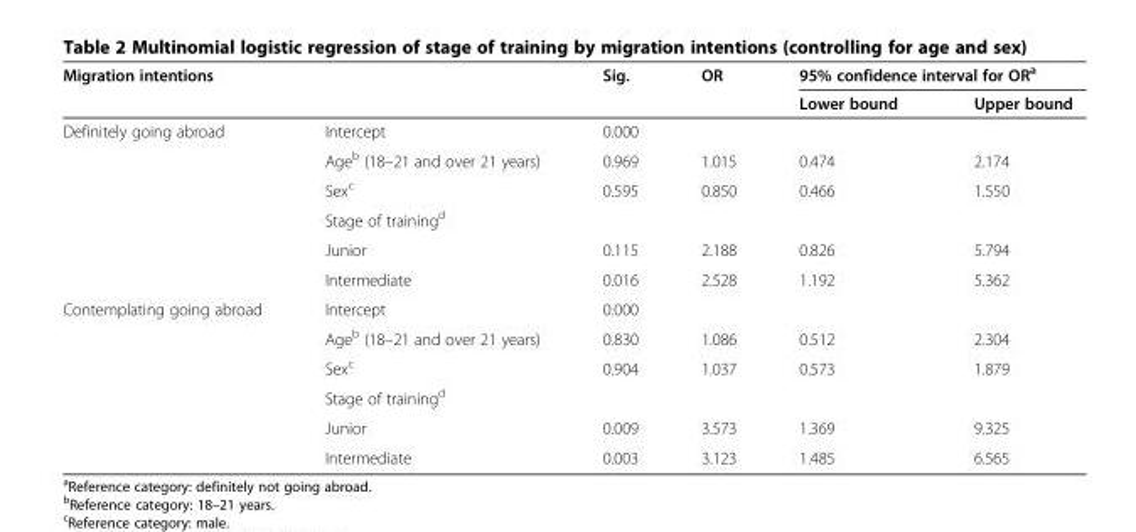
<table><thead><tr><td rowspan="2">Migration intentions</td><td rowspan="2"></td><td rowspan="2">Sig.</td><td rowspan="2">OR</td><td colspan="2">95% confidence interval for OR<sup>a</sup></td></tr><tr><td>Lower bound</td><td>Upper bound</td></tr></thead><tbody><tr><td rowspan="6">Definitely going abroad</td><td>Intercept</td><td>0.000</td><td></td><td></td><td></td></tr><tr><td>Age<sup>b</sup> (18–21 and over 21 years)</td><td>0.969</td><td>1.015</td><td>0.474</td><td>2.174</td></tr><tr><td>Sex<sup>c</sup></td><td>0.595</td><td>0.850</td><td>0.466</td><td>1.550</td></tr><tr><td>Stage of training<sup>d</sup></td><td></td><td></td><td></td><td></td></tr><tr><td>Junior</td><td>0.115</td><td>2.188</td><td>0.826</td><td>5.794</td></tr><tr><td>Intermediate</td><td>0.016</td><td>2.528</td><td>1.192</td><td>5.362</td></tr><tr><td rowspan="6">Contemplating going abroad</td><td>Intercept</td><td>0.000</td><td></td><td></td><td></td></tr><tr><td>Age<sup>b</sup> (18–21 and over 21 years)</td><td>0.830</td><td>1.086</td><td>0.512</td><td>2.304</td></tr><tr><td>Sex<sup>c</sup></td><td>0.904</td><td>1.037</td><td>0.573</td><td>1.879</td></tr><tr><td>Stage of training<sup>d</sup></td><td></td><td></td><td></td><td></td></tr><tr><td>Junior</td><td>0.009</td><td>3.573</td><td>1.369</td><td>9.325</td></tr><tr><td>Intermediate</td><td>0.003</td><td>3.123</td><td>1.485</td><td>6.565</td></tr></tbody></table>